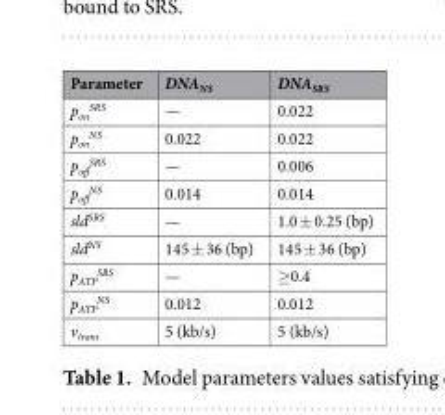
<table><thead><tr><td>Parameter</td><td>DNA<sub>NS</sub></td><td>DNA<sub>SRS</sub></td></tr></thead><tbody><tr><td>p<sub>on</sub> <sup>SRS</sup></td><td>—</td><td>0.022</td></tr><tr><td>p<sub>on</sub> <sup>NS</sup></td><td>0.022</td><td>0.022</td></tr><tr><td>p<sub>off</sub> <sup>SRS</sup></td><td>—</td><td>0.006</td></tr><tr><td>p<sub>off</sub> <sup>NS</sup></td><td>0.014</td><td>0.014</td></tr><tr><td>sld<sup>SRS</sup></td><td>—</td><td>1.0 ± 0.25 (bp)</td></tr><tr><td>sld<sup>NS</sup></td><td>145 ± 36 (bp)</td><td>145 ± 36 (bp)</td></tr><tr><td>p<sub>ATP</sub> <sup>SRS</sup></td><td>—</td><td>≥0.4</td></tr><tr><td>p<sub>ATP</sub> <sup>NS</sup></td><td>0.012</td><td>0.012</td></tr><tr><td>v<sub>trans</sub></td><td>5 (kb/s)</td><td>5 (kb/s)</td></tr></tbody></table>